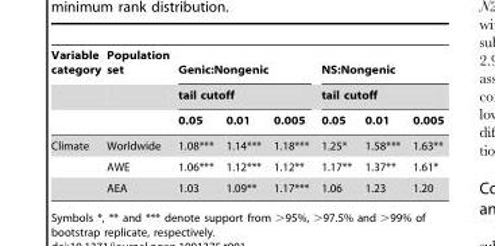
<table><thead><tr><td rowspan="3">Variable category</td><td rowspan="3">Population set</td><td rowspan="2" colspan="3">Genic:Nongenic tail cutoff</td><td rowspan="2" colspan="3">NS:Nongenic tail cutoff</td></tr><tr></tr><tr><td>0.05</td><td>0.01</td><td>0.005</td><td>0.05</td><td>0.01</td><td>0.005</td></tr></thead><tbody><tr><td rowspan="3">Climate</td><td>Worldwide</td><td>1.08***</td><td>1.14***</td><td>1.18***</td><td>1.25*</td><td>1.58***</td><td>1.63**</td></tr><tr><td>AWE</td><td>1.06***</td><td>1.12***</td><td>1.12**</td><td>1.17**</td><td>1.37**</td><td>1.61*</td></tr><tr><td>AEA</td><td>1.03</td><td>1.09**</td><td>1.17***</td><td>1.06</td><td>1.23</td><td>1.20</td></tr></tbody></table>